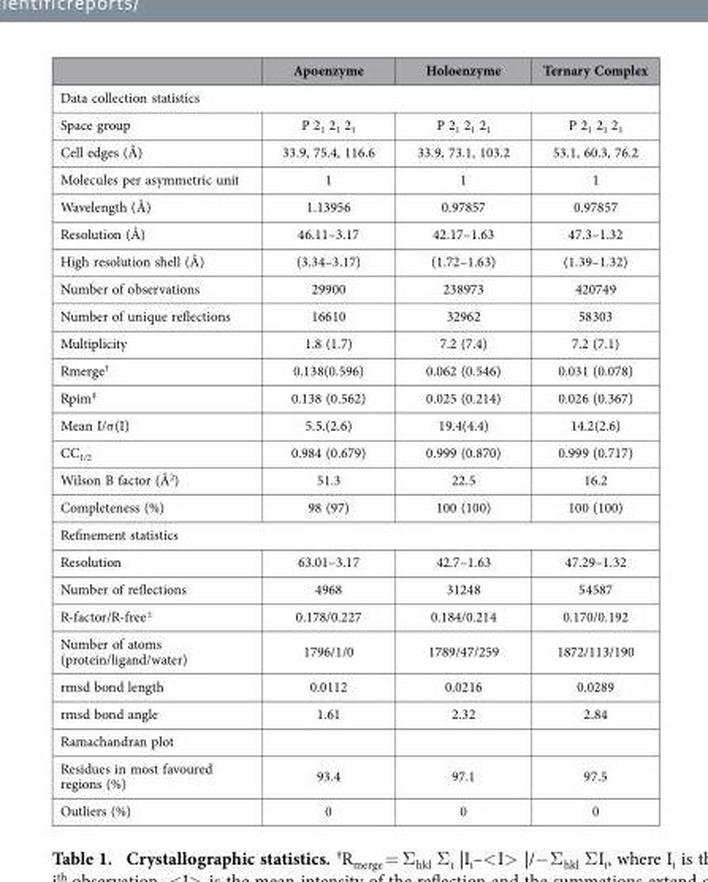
<table><thead><tr><td></td><td>Apoenzyme</td><td>Holoenzyme</td><td>Ternary Complex</td></tr></thead><tbody><tr><td colspan="4">Data collection statistics</td></tr><tr><td>Space group</td><td>P 2<sub>1</sub> 2<sub>1</sub> 2<sub>1</sub></td><td>P 2<sub>1</sub> 2<sub>1</sub> 2<sub>1</sub></td><td>P 2<sub>1</sub> 2<sub>1</sub> 2<sub>1</sub></td></tr><tr><td>Cell edges (Å)</td><td>33.9, 75.4, 116.6</td><td>33.9, 73.1, 103.2</td><td>53.1, 60.3, 76.2</td></tr><tr><td>Molecules per asymmetric unit</td><td>1</td><td>1</td><td>1</td></tr><tr><td>Wavelength (Å)</td><td>1.13956</td><td>0.97857</td><td>0.97857</td></tr><tr><td>Resolution (Å)</td><td>46.11–3.17</td><td>42.17–1.63</td><td>47.3–1.32</td></tr><tr><td>High resolution shell (Å)</td><td>(3.34–3.17)</td><td>(1.72–1.63)</td><td>(1.39–1.32)</td></tr><tr><td>Number of observations</td><td>29900</td><td>238973</td><td>420749</td></tr><tr><td>Number of unique reflections</td><td>16610</td><td>32962</td><td>58303</td></tr><tr><td>Multiplicity</td><td>1.8 (1.7)</td><td>7.2 (7.4)</td><td>7.2 (7.1)</td></tr><tr><td>Rmerge†</td><td>0.138(0.596)</td><td>0.062 (0.546)</td><td>0.031 (0.078)</td></tr><tr><td>Rpim‡</td><td>0.138 (0.562)</td><td>0.025 (0.214)</td><td>0.026 (0.367)</td></tr><tr><td>Mean I/σ (I)</td><td>5.5.(2.6)</td><td>19.4(4.4)</td><td>14.2(2.6)</td></tr><tr><td>CC<sub>1/2</sub></td><td>0.984 (0.679)</td><td>0.999 (0.870)</td><td>0.999 (0.717)</td></tr><tr><td>Wilson B factor (Å<sup>2</sup>)</td><td>51.3</td><td>22.5</td><td>16.2</td></tr><tr><td>Completeness (%)</td><td>98 (97)</td><td>100 (100)</td><td>100 (100)</td></tr><tr><td colspan="4">Refinement statistics</td></tr><tr><td>Resolution</td><td>63.01–3.17</td><td>42.7–1.63</td><td>47.29–1.32</td></tr><tr><td>Number of reflections</td><td>4968</td><td>31248</td><td>54587</td></tr><tr><td>R-factor/R-free±</td><td>0.178/0.227</td><td>0.184/0.214</td><td>0.170/0.192</td></tr><tr><td>Number of atoms (protein/ligand/water)</td><td>1796/1/0</td><td>1789/47/259</td><td>1872/113/190</td></tr><tr><td>rmsd bond length</td><td>0.0112</td><td>0.0216</td><td>0.0289</td></tr><tr><td>rmsd bond angle</td><td>1.61</td><td>2.32</td><td>2.84</td></tr><tr><td colspan="4">Ramachandran plot</td></tr><tr><td>Residues in most favoured regions (%)</td><td>93.4</td><td>97.1</td><td>97.5</td></tr><tr><td>Outliers (%)</td><td>0</td><td>0</td><td>0</td></tr></tbody></table>